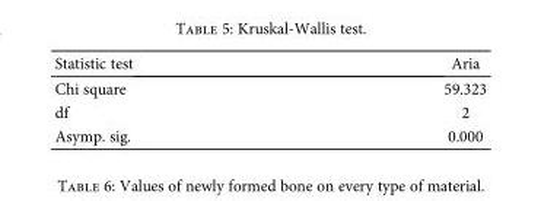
<table><thead><tr><td>Statistic test</td><td>Aria</td></tr></thead><tbody><tr><td>Chi square</td><td>59.323</td></tr><tr><td>df</td><td>2</td></tr><tr><td>Asymp. sig.</td><td>0.000</td></tr></tbody></table>